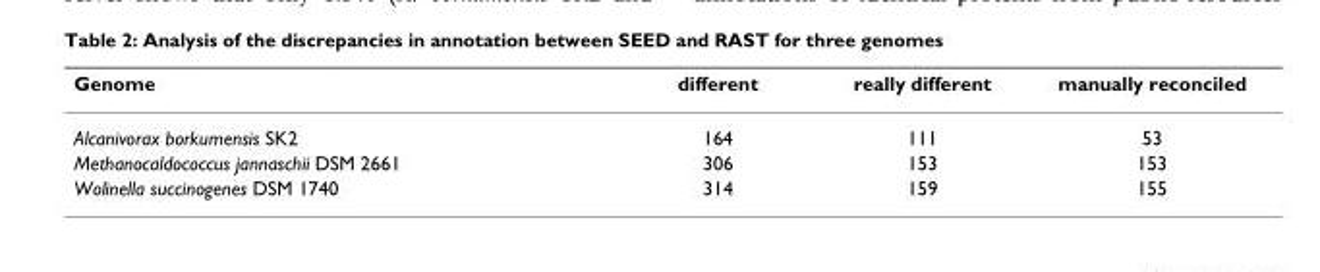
<table><thead><tr><td>Genome</td><td>different</td><td>really different</td><td>manually reconciled</td></tr></thead><tbody><tr><td>Alcanivorax borkumensis SK2</td><td>164</td><td>111</td><td>53</td></tr><tr><td>Methanocaldococcus jannaschii DSM 2661</td><td>306</td><td>153</td><td>153</td></tr><tr><td>Wolinella succinogenes DSM 1740</td><td>314</td><td>159</td><td>155</td></tr></tbody></table>